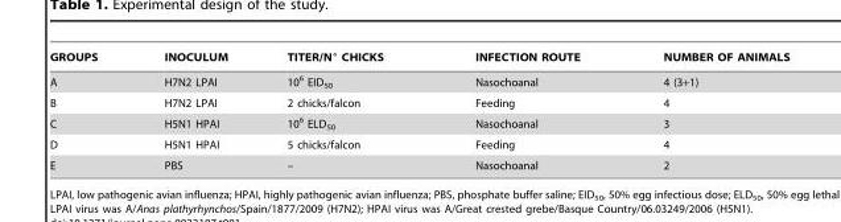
<table><thead><tr><td>GROUPS</td><td>INOCULUM</td><td>TITER/N° CHICKS</td><td>INFECTION ROUTE</td><td>NUMBER OF ANIMALS</td></tr></thead><tbody><tr><td>A</td><td>H7N2 LPAI</td><td>10<sup>6</sup> EID<sub>50</sub></td><td>Nasochoanal</td><td>4 (3+1)</td></tr><tr><td>B</td><td>H7N2 LPAI</td><td>2 chicks/falcon</td><td>Feeding</td><td>4</td></tr><tr><td>C</td><td>H5N1 HPAI</td><td>10<sup>6</sup> ELD<sub>50</sub></td><td>Nasochoanal</td><td>3</td></tr><tr><td>D</td><td>H5N1 HPAI</td><td>5 chicks/falcon</td><td>Feeding</td><td>4</td></tr><tr><td>E</td><td>PBS</td><td>–</td><td>Nasochoanal</td><td>2</td></tr></tbody></table>